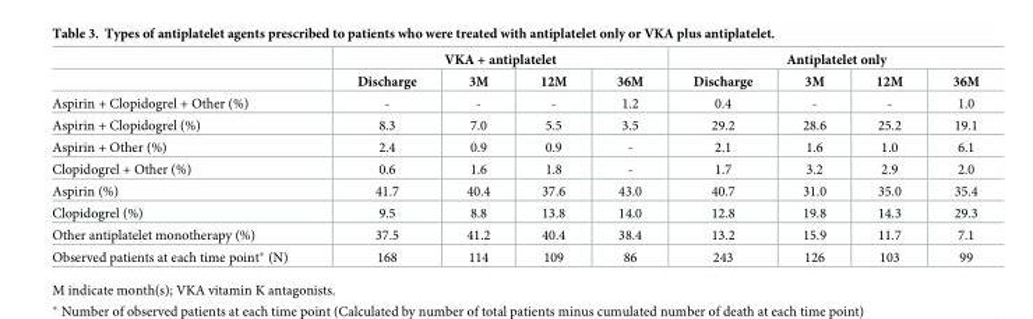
<table><thead><tr><td rowspan="2"></td><td colspan="4">VKA + antiplatelet</td><td colspan="4">Antiplatelet only</td></tr><tr><td>Discharge</td><td>3M</td><td>12M</td><td>36M</td><td>Discharge</td><td>3M</td><td>12M</td><td>36M</td></tr></thead><tbody><tr><td>Aspirin + Clopidogrel + Other (%)</td><td>-</td><td>-</td><td>-</td><td>1.2</td><td>0.4</td><td>-</td><td>-</td><td>1.0</td></tr><tr><td>Aspirin + Clopidogrel (%)</td><td>8.3</td><td>7.0</td><td>5.5</td><td>3.5</td><td>29.2</td><td>28.6</td><td>25.2</td><td>19.1</td></tr><tr><td>Aspirin + Other (%)</td><td>2.4</td><td>0.9</td><td>0.9</td><td>-</td><td>2.1</td><td>1.6</td><td>1.0</td><td>6.1</td></tr><tr><td>Clopidogrel + Other (%)</td><td>0.6</td><td>1.6</td><td>1.8</td><td>-</td><td>1.7</td><td>3.2</td><td>2.9</td><td>2.0</td></tr><tr><td>Aspirin (%)</td><td>41.7</td><td>40.4</td><td>37.6</td><td>43.0</td><td>40.7</td><td>31.0</td><td>35.0</td><td>35.4</td></tr><tr><td>Clopidogrel (%)</td><td>9.5</td><td>8.8</td><td>13.8</td><td>14.0</td><td>12.8</td><td>19.8</td><td>14.3</td><td>29.3</td></tr><tr><td>Other antiplatelet monotherapy (%)</td><td>37.5</td><td>41.2</td><td>40.4</td><td>38.4</td><td>13.2</td><td>15.9</td><td>11.7</td><td>7.1</td></tr><tr><td>Observed patients at each time point* (N)</td><td>168</td><td>114</td><td>109</td><td>86</td><td>243</td><td>126</td><td>103</td><td>99</td></tr></tbody></table>